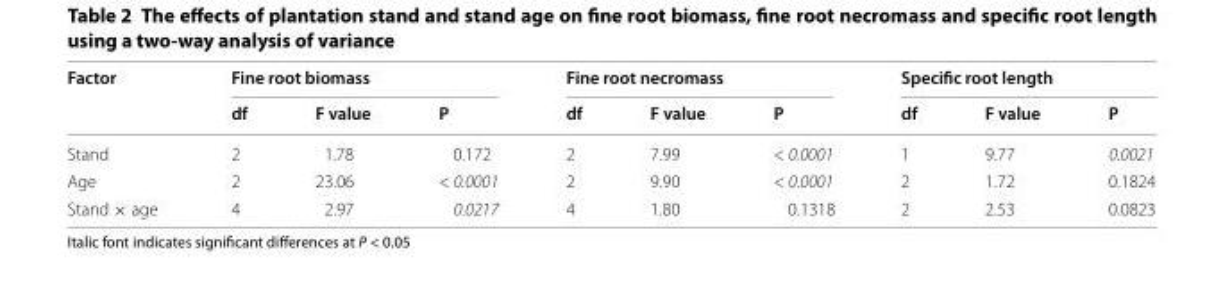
<table><thead><tr><td rowspan="2">Factor</td><td colspan="3">Fine root biomass</td><td colspan="3">Fine root necromass</td><td colspan="3">Specific root length</td></tr><tr><td>df</td><td>F value</td><td>P</td><td>df</td><td>F value</td><td>P</td><td>df</td><td>F value</td><td>P</td></tr></thead><tbody><tr><td>Stand</td><td>2</td><td>1.78</td><td>0.172</td><td>2</td><td>7.99</td><td>&lt; 0.0001</td><td>1</td><td>9.77</td><td>0.0021</td></tr><tr><td>Age</td><td>2</td><td>23.06</td><td>&lt; 0.0001</td><td>2</td><td>9.90</td><td>&lt; 0.0001</td><td>2</td><td>1.72</td><td>0.1824</td></tr><tr><td>Stand × age</td><td>4</td><td>2.97</td><td>0.0217</td><td>4</td><td>1.80</td><td>0.1318</td><td>2</td><td>2.53</td><td>0.0823</td></tr></tbody></table>